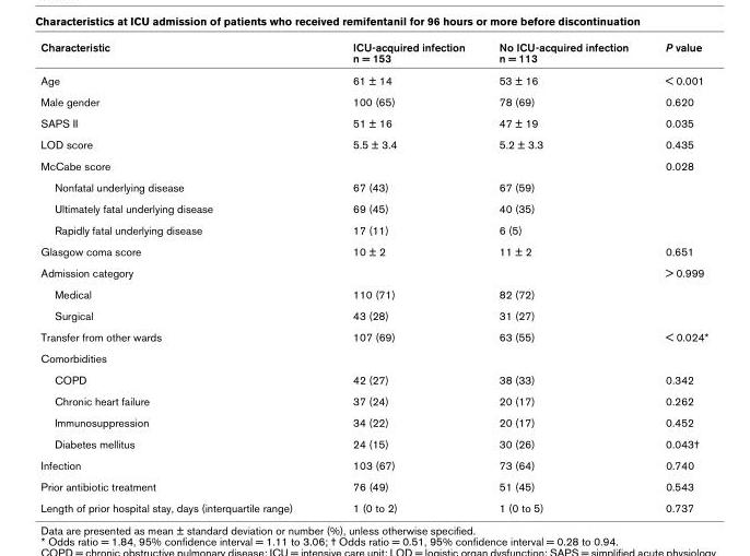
<table><thead><tr><td>Characteristic</td><td>ICU-acquired infection n = 153</td><td>No ICU-acquired infection n = 113</td><td>P value</td></tr></thead><tbody><tr><td>Age</td><td>61 ± 14</td><td>53 ± 16</td><td>&lt; 0.001</td></tr><tr><td>Male gender</td><td>100 (65)</td><td>78 (69)</td><td>0.620</td></tr><tr><td>SAPS II</td><td>51 ± 16</td><td>47 ± 19</td><td>0.035</td></tr><tr><td>LOD score</td><td>5.5 ± 3.4</td><td>5.2 ± 3.3</td><td>0.435</td></tr><tr><td>McCabe score</td><td></td><td></td><td>0.028</td></tr><tr><td>Nonfatal underlying disease</td><td>67 (43)</td><td>67 (59)</td><td></td></tr><tr><td>Ultimately fatal underlying disease</td><td>69 (45)</td><td>40 (35)</td><td></td></tr><tr><td>Rapidly fatal underlying disease</td><td>17 (11)</td><td>6 (5)</td><td></td></tr><tr><td>Glasgow coma score</td><td>10 ± 2</td><td>11 ± 2</td><td>0.651</td></tr><tr><td>Admission category</td><td></td><td></td><td>&gt; 0.999</td></tr><tr><td>Medical</td><td>110 (71)</td><td>82 (72)</td><td></td></tr><tr><td>Surgical</td><td>43 (28)</td><td>31 (27)</td><td></td></tr><tr><td>Transfer from other wards</td><td>107 (69)</td><td>63 (55)</td><td>&lt; 0.024*</td></tr><tr><td colspan="4">Comorbidities</td></tr><tr><td>COPD</td><td>42 (27)</td><td>38 (33)</td><td>0.342</td></tr><tr><td>Chronic heart failure</td><td>37 (24)</td><td>20 (17)</td><td>0.262</td></tr><tr><td>Immunosuppression</td><td>34 (22)</td><td>20 (17)</td><td>0.452</td></tr><tr><td>Diabetes mellitus</td><td>24 (15)</td><td>30 (26)</td><td>0.043†</td></tr><tr><td>Infection</td><td>103 (67)</td><td>73 (64)</td><td>0.740</td></tr><tr><td>Prior antibiotic treatment</td><td>76 (49)</td><td>51 (45)</td><td>0.543</td></tr><tr><td>Length of prior hospital stay, days (interquartile range)</td><td>1 (0 to 2)</td><td>1 (0 to 5)</td><td>0.737</td></tr></tbody></table>